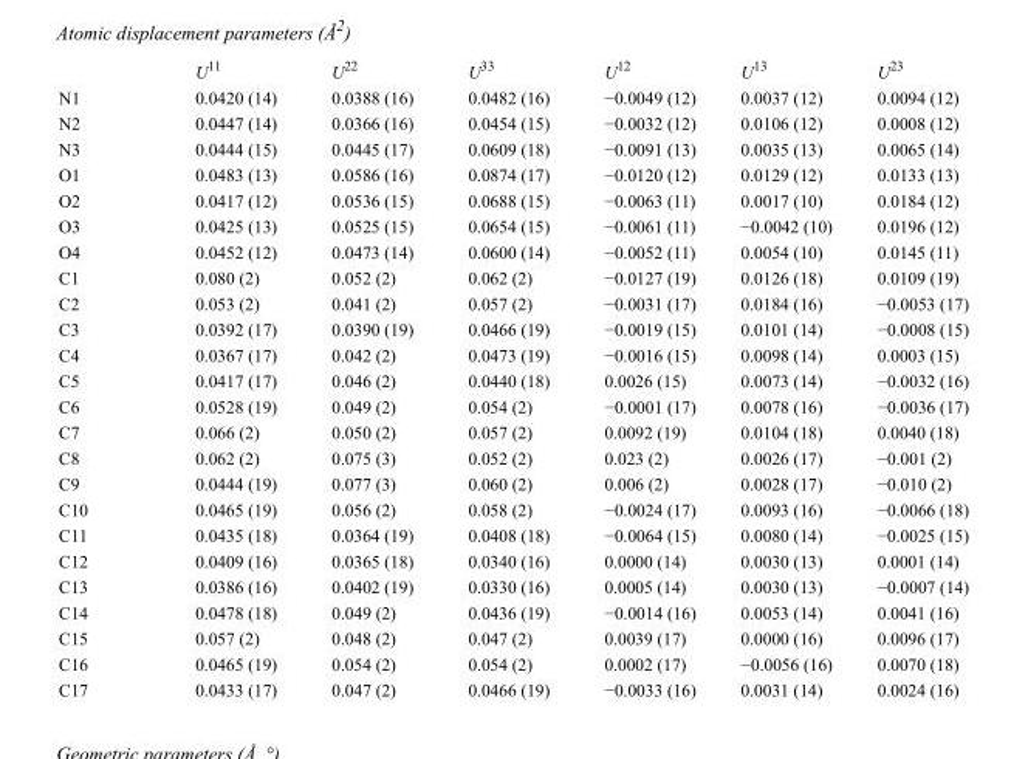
<table><thead><tr><td></td><td>U<sup>11</sup></td><td>U<sup>22</sup></td><td>U<sup>33</sup></td><td>U<sup>12</sup></td><td>U<sup>13</sup></td><td>U<sup>23</sup></td></tr></thead><tbody><tr><td>N1</td><td>0.0420 (14)</td><td>0.0388 (16)</td><td>0.0482 (16)</td><td>−0.0049 (12)</td><td>0.0037 (12)</td><td>0.0094 (12)</td></tr><tr><td>N2</td><td>0.0447 (14)</td><td>0.0366 (16)</td><td>0.0454 (15)</td><td>−0.0032 (12)</td><td>0.0106 (12)</td><td>0.0008 (12)</td></tr><tr><td>N3</td><td>0.0444 (15)</td><td>0.0445 (17)</td><td>0.0609 (18)</td><td>−0.0091 (13)</td><td>0.0035 (13)</td><td>0.0065 (14)</td></tr><tr><td>O1</td><td>0.0483 (13)</td><td>0.0586 (16)</td><td>0.0874 (17)</td><td>−0.0120 (12)</td><td>0.0129 (12)</td><td>0.0133 (13)</td></tr><tr><td>O2</td><td>0.0417 (12)</td><td>0.0536 (15)</td><td>0.0688 (15)</td><td>−0.0063 (11)</td><td>0.0017 (10)</td><td>0.0184 (12)</td></tr><tr><td>O3</td><td>0.0425 (13)</td><td>0.0525 (15)</td><td>0.0654 (15)</td><td>−0.0061 (11)</td><td>−0.0042 (10)</td><td>0.0196 (12)</td></tr><tr><td>O4</td><td>0.0452 (12)</td><td>0.0473 (14)</td><td>0.0600 (14)</td><td>−0.0052 (11)</td><td>0.0054 (10)</td><td>0.0145 (11)</td></tr><tr><td>C1</td><td>0.080 (2)</td><td>0.052 (2)</td><td>0.062 (2)</td><td>−0.0127 (19)</td><td>0.0126 (18)</td><td>0.0109 (19)</td></tr><tr><td>C2</td><td>0.053 (2)</td><td>0.041 (2)</td><td>0.057 (2)</td><td>−0.0031 (17)</td><td>0.0184 (16)</td><td>−0.0053 (17)</td></tr><tr><td>C3</td><td>0.0392 (17)</td><td>0.0390 (19)</td><td>0.0466 (19)</td><td>−0.0019 (15)</td><td>0.0101 (14)</td><td>−0.0008 (15)</td></tr><tr><td>C4</td><td>0.0367 (17)</td><td>0.042 (2)</td><td>0.0473 (19)</td><td>−0.0016 (15)</td><td>0.0098 (14)</td><td>0.0003 (15)</td></tr><tr><td>C5</td><td>0.0417 (17)</td><td>0.046 (2)</td><td>0.0440 (18)</td><td>0.0026 (15)</td><td>0.0073 (14)</td><td>−0.0032 (16)</td></tr><tr><td>C6</td><td>0.0528 (19)</td><td>0.049 (2)</td><td>0.054 (2)</td><td>−0.0001 (17)</td><td>0.0078 (16)</td><td>−0.0036 (17)</td></tr><tr><td>C7</td><td>0.066 (2)</td><td>0.050 (2)</td><td>0.057 (2)</td><td>0.0092 (19)</td><td>0.0104 (18)</td><td>0.0040 (18)</td></tr><tr><td>C8</td><td>0.062 (2)</td><td>0.075 (3)</td><td>0.052 (2)</td><td>0.023 (2)</td><td>0.0026 (17)</td><td>−0.001 (2)</td></tr><tr><td>C9</td><td>0.0444 (19)</td><td>0.077 (3)</td><td>0.060 (2)</td><td>0.006 (2)</td><td>0.0028 (17)</td><td>−0.010 (2)</td></tr><tr><td>C10</td><td>0.0465 (19)</td><td>0.056 (2)</td><td>0.058 (2)</td><td>−0.0024 (17)</td><td>0.0093 (16)</td><td>−0.0066 (18)</td></tr><tr><td>C11</td><td>0.0435 (18)</td><td>0.0364 (19)</td><td>0.0408 (18)</td><td>−0.0064 (15)</td><td>0.0080 (14)</td><td>−0.0025 (15)</td></tr><tr><td>C12</td><td>0.0409 (16)</td><td>0.0365 (18)</td><td>0.0340 (16)</td><td>0.0000 (14)</td><td>0.0030 (13)</td><td>0.0001 (14)</td></tr><tr><td>C13</td><td>0.0386 (16)</td><td>0.0402 (19)</td><td>0.0330 (16)</td><td>0.0005 (14)</td><td>0.0030 (13)</td><td>−0.0007 (14)</td></tr><tr><td>C14</td><td>0.0478 (18)</td><td>0.049 (2)</td><td>0.0436 (19)</td><td>−0.0014 (16)</td><td>0.0053 (14)</td><td>0.0041 (16)</td></tr><tr><td>C15</td><td>0.057 (2)</td><td>0.048 (2)</td><td>0.047 (2)</td><td>0.0039 (17)</td><td>0.0000 (16)</td><td>0.0096 (17)</td></tr><tr><td>C16</td><td>0.0465 (19)</td><td>0.054 (2)</td><td>0.054 (2)</td><td>0.0002 (17)</td><td>−0.0056 (16)</td><td>0.0070 (18)</td></tr><tr><td>C17</td><td>0.0433 (17)</td><td>0.047 (2)</td><td>0.0466 (19)</td><td>−0.0033 (16)</td><td>0.0031 (14)</td><td>0.0024 (16)</td></tr></tbody></table>